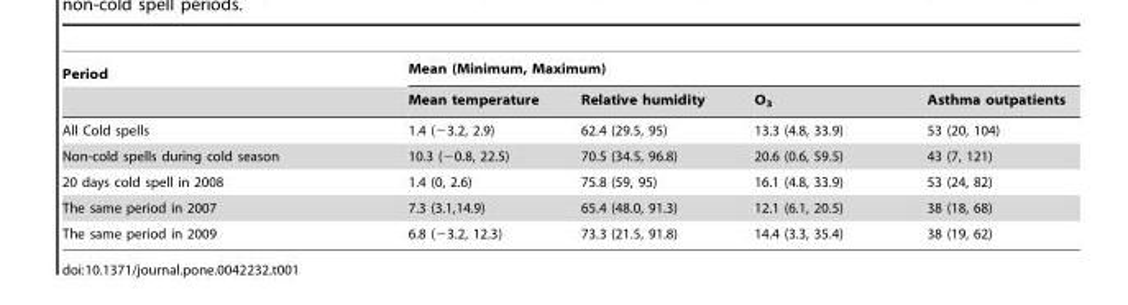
<table><thead><tr><td rowspan="2">Period</td><td colspan="4">Mean (Minimum, Maximum)</td></tr><tr><td>Mean temperature</td><td>Relative humidity</td><td>O<sub>3</sub></td><td>Asthma outpatients</td></tr></thead><tbody><tr><td>All Cold spells</td><td>1.4 (−3.2, 2.9)</td><td>62.4 (29.5, 95)</td><td>13.3 (4.8, 33.9)</td><td>53 (20, 104)</td></tr><tr><td>Non-cold spells during cold season</td><td>10.3 (−0.8, 22.5)</td><td>70.5 (34.5, 96.8)</td><td>20.6 (0.6, 59.5)</td><td>43 (7, 121)</td></tr><tr><td>20 days cold spell in 2008</td><td>1.4 (0, 2.6)</td><td>75.8 (59, 95)</td><td>16.1 (4.8, 33.9)</td><td>53 (24, 82)</td></tr><tr><td>The same period in 2007</td><td>7.3 (3.1,14.9)</td><td>65.4 (48.0, 91.3)</td><td>12.1 (6.1, 20.5)</td><td>38 (18, 68)</td></tr><tr><td>The same period in 2009</td><td>6.8 (−3.2, 12.3)</td><td>73.3 (21.5, 91.8)</td><td>14.4 (3.3, 35.4)</td><td>38 (19, 62)</td></tr></tbody></table>